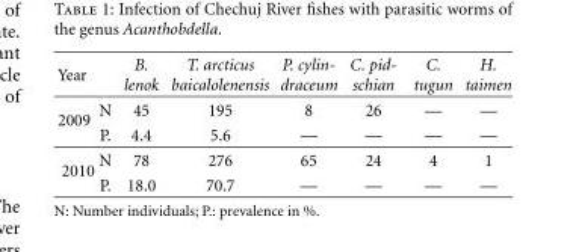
<table><thead><tr><td>Year</td><td></td><td>B. lenok</td><td>T. arcticus baicalolenensis</td><td>P. cylin- draceum</td><td>C. pid- schian</td><td>C. tugun</td><td>H. taimen</td></tr></thead><tbody><tr><td rowspan="2">2009</td><td>N</td><td>45</td><td>195</td><td>8</td><td>26</td><td>—</td><td>—</td></tr><tr><td>P.</td><td>4.4</td><td>5.6</td><td>—</td><td>—</td><td>—</td><td>—</td></tr><tr><td rowspan="2">2010</td><td>N</td><td>78</td><td>276</td><td>65</td><td>24</td><td>4</td><td>1</td></tr><tr><td>P.</td><td>18.0</td><td>70.7</td><td>—</td><td>—</td><td>—</td><td>—</td></tr></tbody></table>